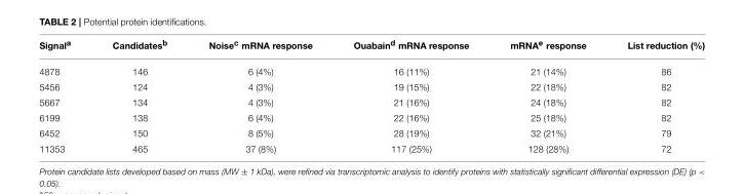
<table><thead><tr><td>Signal<sup>a</sup></td><td>Candidates<sup>b</sup></td><td>Noise<sup>c</sup> mRNA response</td><td>Ouabain<sup>d</sup> mRNA response</td><td>mRNA<sup>e</sup> response</td><td>List reduction (%)</td></tr></thead><tbody><tr><td>4878</td><td>146</td><td>6 (4%)</td><td>16 (11%)</td><td>21 (14%)</td><td>86</td></tr><tr><td>5456</td><td>124</td><td>4 (3%)</td><td>19 (15%)</td><td>22 (18%)</td><td>82</td></tr><tr><td>5667</td><td>134</td><td>4 (3%)</td><td>21 (16%)</td><td>24 (18%)</td><td>82</td></tr><tr><td>6199</td><td>138</td><td>6 (4%)</td><td>22 (16%)</td><td>25 (18%)</td><td>82</td></tr><tr><td>6452</td><td>150</td><td>8 (5%)</td><td>28 (19%)</td><td>32 (21%)</td><td>79</td></tr><tr><td>11353</td><td>465</td><td>37 (8%)</td><td>117 (25%)</td><td>128 (28%)</td><td>72</td></tr></tbody></table>